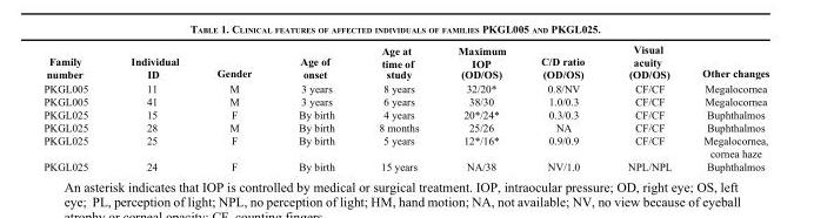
<table><thead><tr><td>Family number</td><td>Individual ID</td><td>Gender</td><td>Age of onset</td><td>Age at time of study</td><td>Maximum IOP (OD/OS)</td><td>C/D ratio (OD/OS)</td><td>Visual acuity (OD/OS)</td><td>Other changes</td></tr></thead><tbody><tr><td>PKGL005</td><td>11</td><td>M</td><td>3 years</td><td>8 years</td><td>32/20*</td><td>0.8/NV</td><td>CF/CF</td><td>Megalocornea</td></tr><tr><td>PKGL005</td><td>41</td><td>M</td><td>3 years</td><td>6 years</td><td>38/30</td><td>1.0/0.3</td><td>CF/CF</td><td>Megalocornea</td></tr><tr><td>PKGL025</td><td>15</td><td>F</td><td>By birth</td><td>4 years</td><td>20*/24*</td><td>0.3/0.3</td><td>CF/CF</td><td>Buphthalmos</td></tr><tr><td>PKGL025</td><td>28</td><td>M</td><td>By birth</td><td>8 months</td><td>25/26</td><td>NA</td><td>CF/CF</td><td>Buphthalmos</td></tr><tr><td>PKGL025</td><td>25</td><td>F</td><td>By birth</td><td>5 years</td><td>12*/16*</td><td>0.9/0.9</td><td>CF/CF</td><td>Megalocornea, cornea haze</td></tr><tr><td>PKGL025</td><td>24</td><td>F</td><td>By birth</td><td>15 years</td><td>NA/38</td><td>NV/1.0</td><td>NPL/NPL</td><td>Buphthalmos</td></tr></tbody></table>